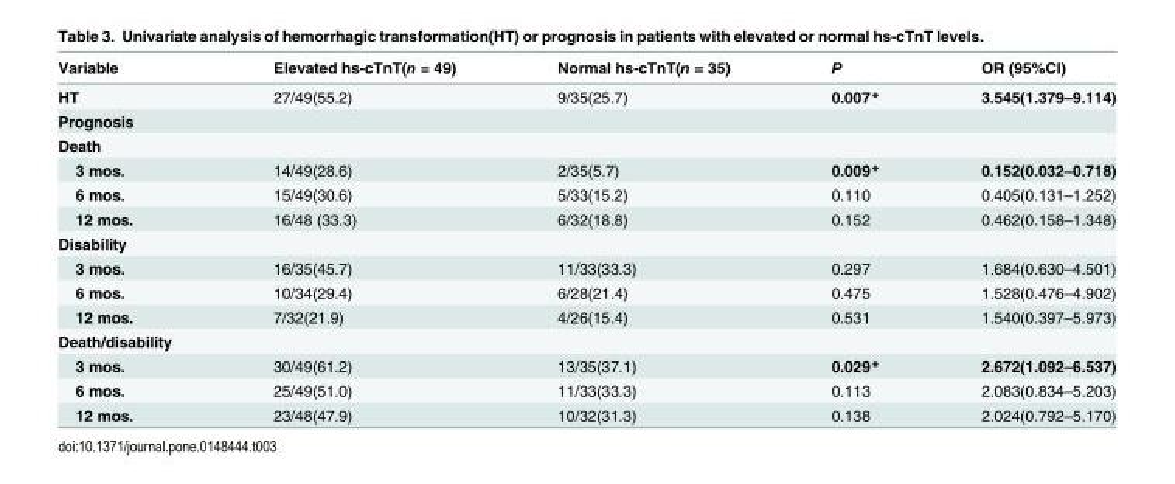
<table><thead><tr><td>Variable</td><td>Elevated hs-cTnT(n = 49)</td><td>Normal hs-cTnT(n = 35)</td><td>P</td><td>OR (95%CI)</td></tr></thead><tbody><tr><td>HT</td><td>27/49(55.2)</td><td>9/35(25.7)</td><td>0.007*</td><td>3.545(1.379–9.114)</td></tr><tr><td colspan="5">Prognosis</td></tr><tr><td colspan="5">Death</td></tr><tr><td>3 mos.</td><td>14/49(28.6)</td><td>2/35(5.7)</td><td>0.009*</td><td>0.152(0.032–0.718)</td></tr><tr><td>6 mos.</td><td>15/49(30.6)</td><td>5/33(15.2)</td><td>0.110</td><td>0.405(0.131–1.252)</td></tr><tr><td>12 mos.</td><td>16/48 (33.3)</td><td>6/32(18.8)</td><td>0.152</td><td>0.462(0.158–1.348)</td></tr><tr><td colspan="5">Disability</td></tr><tr><td>3 mos.</td><td>16/35(45.7)</td><td>11/33(33.3)</td><td>0.297</td><td>1.684(0.630–4.501)</td></tr><tr><td>6 mos.</td><td>10/34(29.4)</td><td>6/28(21.4)</td><td>0.475</td><td>1.528(0.476–4.902)</td></tr><tr><td>12 mos.</td><td>7/32(21.9)</td><td>4/26(15.4)</td><td>0.531</td><td>1.540(0.397–5.973)</td></tr><tr><td colspan="5">Death/disability</td></tr><tr><td>3 mos.</td><td>30/49(61.2)</td><td>13/35(37.1)</td><td>0.029*</td><td>2.672(1.092–6.537)</td></tr><tr><td>6 mos.</td><td>25/49(51.0)</td><td>11/33(33.3)</td><td>0.113</td><td>2.083(0.834–5.203)</td></tr><tr><td>12 mos.</td><td>23/48(47.9)</td><td>10/32(31.3)</td><td>0.138</td><td>2.024(0.792–5.170)</td></tr></tbody></table>